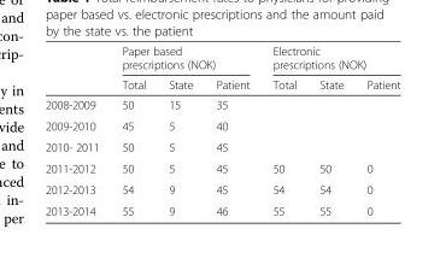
<table><thead><tr><td rowspan="2"></td><td colspan="3">Paper based prescriptions (NOK)</td><td colspan="3">Electronic prescriptions (NOK)</td></tr><tr><td>Total</td><td>State</td><td>Patient</td><td>Total</td><td>State</td><td>Patient</td></tr></thead><tbody><tr><td>2008-2009</td><td>50</td><td>15</td><td>35</td><td></td><td></td><td></td></tr><tr><td>2009-2010</td><td>45</td><td>5</td><td>40</td><td></td><td></td><td></td></tr><tr><td>2010- 2011</td><td>50</td><td>5</td><td>45</td><td></td><td></td><td></td></tr><tr><td>2011-2012</td><td>50</td><td>5</td><td>45</td><td>50</td><td>50</td><td>0</td></tr><tr><td>2012-2013</td><td>54</td><td>9</td><td>45</td><td>54</td><td>54</td><td>0</td></tr><tr><td>2013-2014</td><td>55</td><td>9</td><td>46</td><td>55</td><td>55</td><td>0</td></tr></tbody></table>